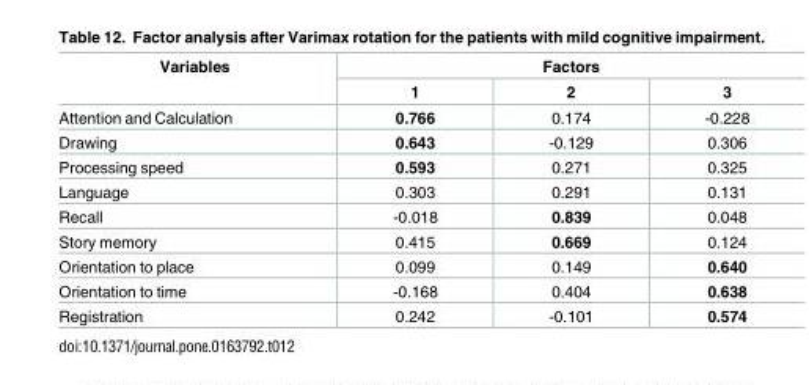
<table><thead><tr><td rowspan="2">Variables</td><td colspan="3">Factors</td></tr><tr><td>1</td><td>2</td><td>3</td></tr></thead><tbody><tr><td>Attention and Calculation</td><td>0.766</td><td>0.174</td><td>-0.228</td></tr><tr><td>Drawing</td><td>0.643</td><td>-0.129</td><td>0.306</td></tr><tr><td>Processing speed</td><td>0.593</td><td>0.271</td><td>0.325</td></tr><tr><td>Language</td><td>0.303</td><td>0.291</td><td>0.131</td></tr><tr><td>Recall</td><td>-0.018</td><td>0.839</td><td>0.048</td></tr><tr><td>Story memory</td><td>0.415</td><td>0.669</td><td>0.124</td></tr><tr><td>Orientation to place</td><td>0.099</td><td>0.149</td><td>0.640</td></tr><tr><td>Orientation to time</td><td>-0.168</td><td>0.404</td><td>0.638</td></tr><tr><td>Registration</td><td>0.242</td><td>-0.101</td><td>0.574</td></tr></tbody></table>